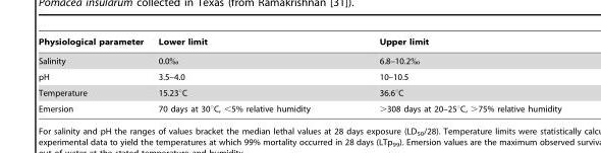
<table><thead><tr><td>Physiological parameter</td><td>Lower limit</td><td>Upper limit</td></tr></thead><tbody><tr><td>Salinity</td><td>0.0‰</td><td>6.8–10.2‰</td></tr><tr><td>pH</td><td>3.5–4.0</td><td>10–10.5</td></tr><tr><td>Temperature</td><td>15.23°C</td><td>36.6°C</td></tr><tr><td>Emersion</td><td>70 days at 30°C, &lt;5% relative humidity</td><td>&gt;308 days at 20–25°C, &gt;75% relative humidity</td></tr></tbody></table>